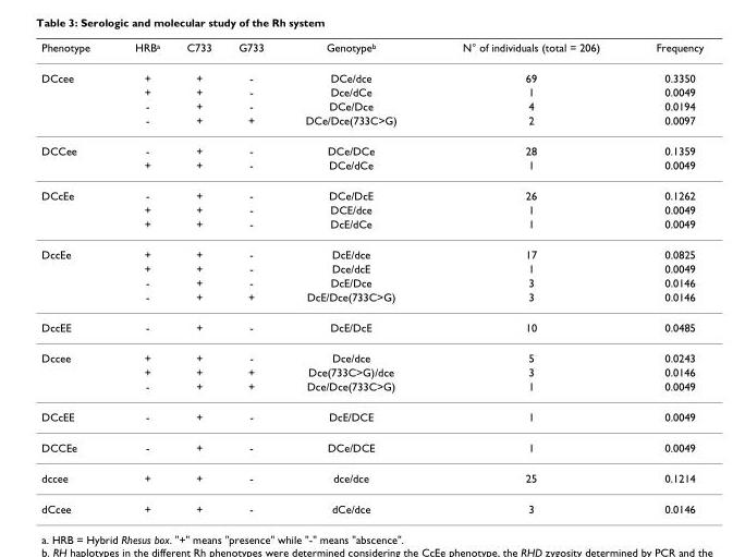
<table><thead><tr><td>Phenotype</td><td>HRB<sup>a</sup></td><td>C733</td><td>G733</td><td>Genotype<sup>b</sup></td><td>N° of individuals (total = 206)</td><td>Frequency</td></tr></thead><tbody><tr><td rowspan="4">DCcee</td><td>+</td><td>+</td><td>-</td><td>DCe/dce</td><td>69</td><td>0.3350</td></tr><tr><td>+</td><td>+</td><td>-</td><td>Dce/dCe</td><td>1</td><td>0.0049</td></tr><tr><td>-</td><td>+</td><td>-</td><td>DCe/Dce</td><td>4</td><td>0.0194</td></tr><tr><td>-</td><td>+</td><td>+</td><td>DCe/Dce(733C&gt;G)</td><td>2</td><td>0.0097</td></tr><tr><td rowspan="2">DCCee</td><td>-</td><td>+</td><td>-</td><td>DCe/DCe</td><td>28</td><td>0.1359</td></tr><tr><td>+</td><td>+</td><td>-</td><td>DCe/dCe</td><td>1</td><td>0.0049</td></tr><tr><td rowspan="3">DCcEe</td><td>-</td><td>+</td><td>-</td><td>DCe/DcE</td><td>26</td><td>0.1262</td></tr><tr><td>+</td><td>+</td><td>-</td><td>DCE/dce</td><td>1</td><td>0.0049</td></tr><tr><td>+</td><td>+</td><td>-</td><td>DcE/dCe</td><td>1</td><td>0.0049</td></tr><tr><td rowspan="4">DccEe</td><td>+</td><td>+</td><td>-</td><td>DcE/dce</td><td>17</td><td>0.0825</td></tr><tr><td>+</td><td>+</td><td>-</td><td>Dce/dcE</td><td>1</td><td>0.0049</td></tr><tr><td>-</td><td>+</td><td>-</td><td>DcE/Dce</td><td>3</td><td>0.0146</td></tr><tr><td>-</td><td>+</td><td>+</td><td>DcE/Dce(733C&gt;G)</td><td>3</td><td>0.0146</td></tr><tr><td>DccEE</td><td>-</td><td>+</td><td>-</td><td>DcE/DcE</td><td>10</td><td>0.0485</td></tr><tr><td rowspan="3">Dccee</td><td>+</td><td>+</td><td>-</td><td>Dce/dce</td><td>5</td><td>0.0243</td></tr><tr><td>+</td><td>+</td><td>+</td><td>Dce(733C&gt;G)/dce</td><td>3</td><td>0.0146</td></tr><tr><td>-</td><td>+</td><td>+</td><td>Dce/Dce(733C&gt;G)</td><td>1</td><td>0.0049</td></tr><tr><td>DCcEE</td><td>-</td><td>+</td><td>-</td><td>DcE/DCE</td><td>1</td><td>0.0049</td></tr><tr><td>DCCEe</td><td>-</td><td>+</td><td>-</td><td>DCe/DCE</td><td>1</td><td>0.0049</td></tr><tr><td>dccee</td><td>+</td><td>+</td><td>-</td><td>dce/dce</td><td>25</td><td>0.1214</td></tr><tr><td>dCcee</td><td>+</td><td>+</td><td>-</td><td>dCe/dce</td><td>3</td><td>0.0146</td></tr></tbody></table>